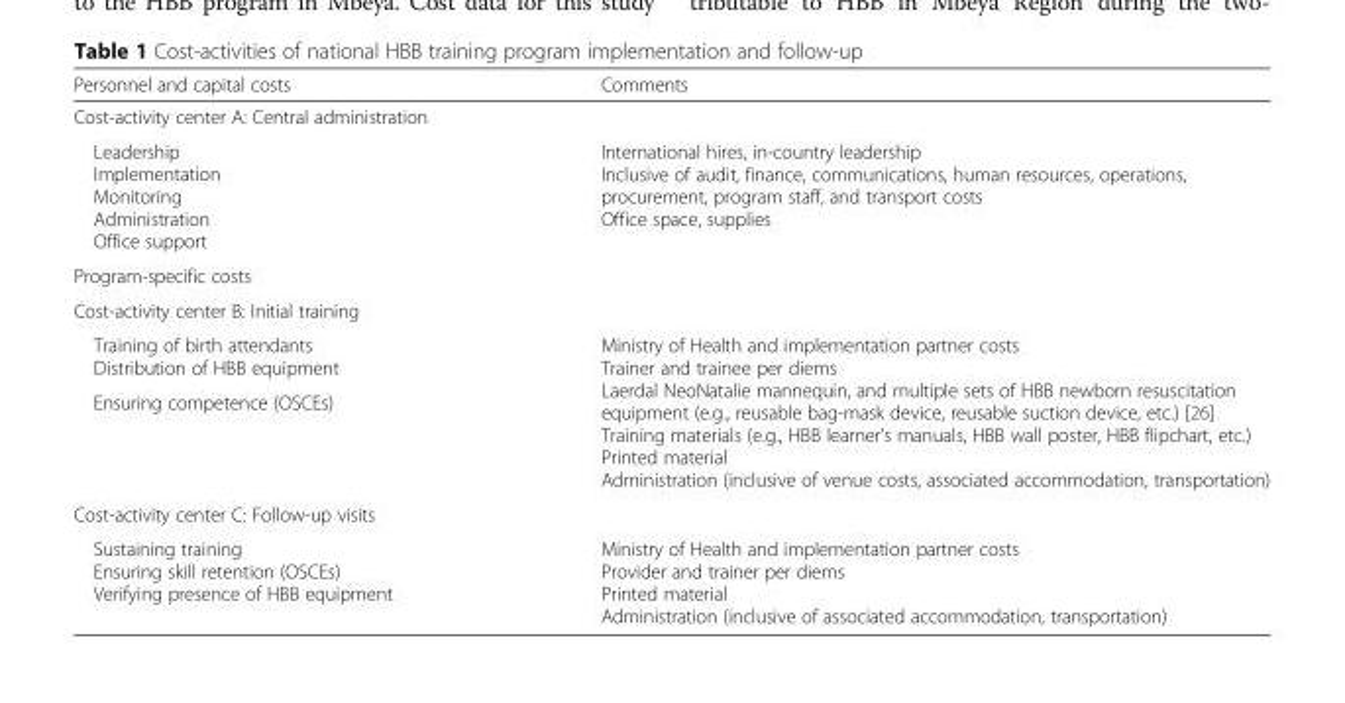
<table><thead><tr><td>Personnel and capital costs</td><td>Comments</td></tr></thead><tbody><tr><td colspan="2">Cost-activity center A: Central administration</td></tr><tr><td>Leadership Implementation Monitoring Administration Office support</td><td>International hires, in-country leadership Inclusive of audit, finance, communications, human resources, operations, procurement, program staff, and transport costs Office space, supplies</td></tr><tr><td colspan="2">Program-specific costs</td></tr><tr><td colspan="2">Cost-activity center B: Initial training</td></tr><tr><td>Training of birth attendants Distribution of HBB equipment</td><td rowspan="2">Ministry of Health and implementation partner costs Trainer and trainee per diems Laerdal NeoNatalie mannequin, and multiple sets of HBB newborn resuscitation equipment (e.g., reusable bag-mask device, reusable suction device, etc.) [26] Training materials (e.g., HBB learner’s manuals, HBB wall poster, HBB flipchart, etc.) Printed material Administration (inclusive of venue costs, associated accommodation, transportation)</td></tr><tr><td>Ensuring competence (OSCEs)</td></tr><tr><td colspan="2">Cost-activity center C: Follow-up visits</td></tr><tr><td>Sustaining training Ensuring skill retention (OSCEs) Verifying presence of HBB equipment</td><td>Ministry of Health and implementation partner costs Provider and trainer per diems Printed material Administration (inclusive of associated accommodation, transportation)</td></tr></tbody></table>